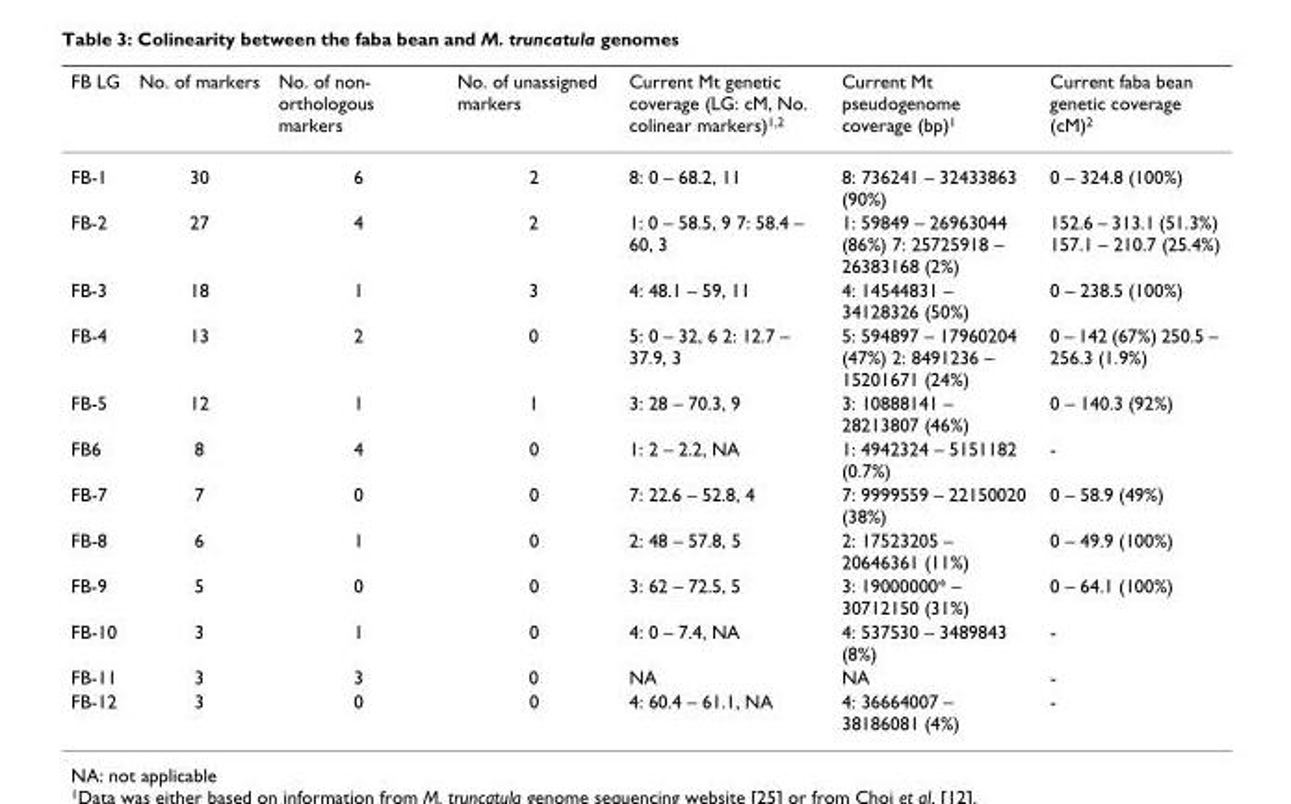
<table><thead><tr><td>FB LG</td><td>No. of markers</td><td>No. of non- orthologous markers</td><td>No. of unassigned markers</td><td>Current Mt genetic coverage (LG: cM, No. colinear markers)<sup>1,2</sup></td><td>Current Mt pseudogenome coverage (bp)<sup>1</sup></td><td>Current faba bean genetic coverage (cM)<sup>2</sup></td></tr></thead><tbody><tr><td>FB-1</td><td>30</td><td>6</td><td>2</td><td>8: 0 – 68.2, 11</td><td>8: 736241 – 32433863 (90%)</td><td>0 – 324.8 (100%)</td></tr><tr><td>FB-2</td><td>27</td><td>4</td><td>2</td><td>1: 0 – 58.5, 9 7: 58.4 – 60, 3</td><td>1: 59849 – 26963044 (86%) 7: 25725918 – 26383168 (2%)</td><td>152.6 – 313.1 (51.3%) 157.1 – 210.7 (25.4%)</td></tr><tr><td>FB-3</td><td>18</td><td>1</td><td>3</td><td>4: 48.1 – 59, 11</td><td>4: 14544831 – 34128326 (50%)</td><td>0 – 238.5 (100%)</td></tr><tr><td>FB-4</td><td>13</td><td>2</td><td>0</td><td>5: 0 – 32, 6 2: 12.7 – 37.9, 3</td><td>5: 594897 – 17960204 (47%) 2: 8491236 – 15201671 (24%)</td><td>0 – 142 (67%) 250.5 – 256.3 (1.9%)</td></tr><tr><td>FB-5</td><td>12</td><td>1</td><td>1</td><td>3: 28 – 70.3, 9</td><td>3: 10888141 – 28213807 (46%)</td><td>0 – 140.3 (92%)</td></tr><tr><td>FB6</td><td>8</td><td>4</td><td>0</td><td>1: 2 – 2.2, NA</td><td>1: 4942324 – 5151182 (0.7%)</td><td>-</td></tr><tr><td>FB-7</td><td>7</td><td>0</td><td>0</td><td>7: 22.6 – 52.8, 4</td><td>7: 9999559 – 22150020 (38%)</td><td>0 – 58.9 (49%)</td></tr><tr><td>FB-8</td><td>6</td><td>1</td><td>0</td><td>2: 48 – 57.8, 5</td><td>2: 17523205 – 20646361 (11%)</td><td>0 – 49.9 (100%)</td></tr><tr><td>FB-9</td><td>5</td><td>0</td><td>0</td><td>3: 62 – 72.5, 5</td><td>3: 19000000* – 30712150 (31%)</td><td>0 – 64.1 (100%)</td></tr><tr><td>FB-10</td><td>3</td><td>1</td><td>0</td><td>4: 0 – 7.4, NA</td><td>4: 537530 – 3489843 (8%)</td><td>-</td></tr><tr><td>FB-11</td><td>3</td><td>3</td><td>0</td><td>NA</td><td>NA</td><td>-</td></tr><tr><td>FB-12</td><td>3</td><td>0</td><td>0</td><td>4: 60.4 – 61.1, NA</td><td>4: 36664007 – 38186081 (4%)</td><td>-</td></tr></tbody></table>